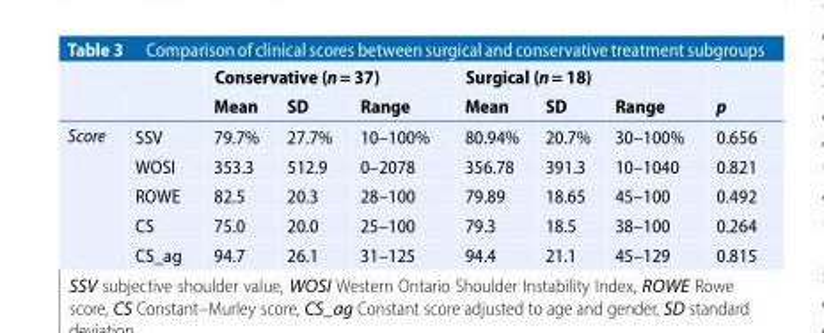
<table><thead><tr><td rowspan="2"></td><td rowspan="2"></td><td colspan="3">Conservative (n= 37)</td><td colspan="3">Surgical (n= 18)</td><td rowspan="2">p</td></tr><tr><td>Mean</td><td>SD</td><td>Range</td><td>Mean</td><td>SD</td><td>Range</td></tr></thead><tbody><tr><td rowspan="5">Score</td><td>SSV</td><td>79.7%</td><td>27.7%</td><td>10–100%</td><td>80.94%</td><td>20.7%</td><td>30–100%</td><td>0.656</td></tr><tr><td>WOSI</td><td>353.3</td><td>512.9</td><td>0–2078</td><td>356.78</td><td>391.3</td><td>10–1040</td><td>0.821</td></tr><tr><td>ROWE</td><td>82.5</td><td>20.3</td><td>28–100</td><td>79.89</td><td>18.65</td><td>45–100</td><td>0.492</td></tr><tr><td>CS</td><td>75.0</td><td>20.0</td><td>25–100</td><td>79.3</td><td>18.5</td><td>38–100</td><td>0.264</td></tr><tr><td>CS_ag</td><td>94.7</td><td>26.1</td><td>31–125</td><td>94.4</td><td>21.1</td><td>45–129</td><td>0.815</td></tr></tbody></table>